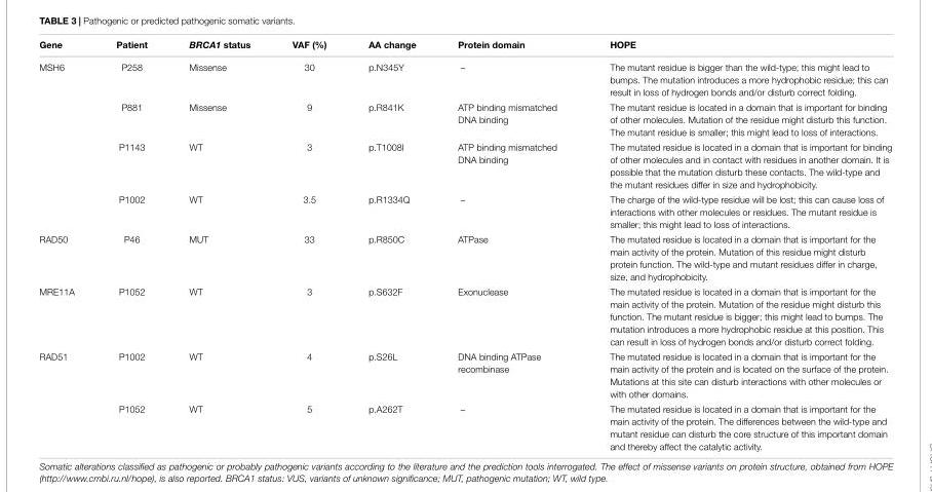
<table><thead><tr><td>Gene</td><td>Patient</td><td>BRCA1 status</td><td>VAF (%)</td><td>AA change</td><td>Protein domain</td><td>HOPE</td></tr></thead><tbody><tr><td rowspan="4">MSH6</td><td>P258</td><td>Missense</td><td>30</td><td>p.N345Y</td><td>–</td><td>The mutant residue is bigger than the wild-type; this might lead to bumps. The mutation introduces a more hydrophobic residue; this can result in loss of hydrogen bonds and/or disturb correct folding.</td></tr><tr><td>P881</td><td>Missense</td><td>9</td><td>p.R841K</td><td>ATP binding mismatched DNA binding</td><td>The mutant residue is located in a domain that is important for binding of other molecules. Mutation of the residue might disturb this function. The mutant residue is smaller; this might lead to loss of interactions.</td></tr><tr><td>P1143</td><td>WT</td><td>3</td><td>p.T1008I</td><td>ATP binding mismatched DNA binding</td><td>The mutated residue is located in a domain that is important for binding of other molecules and in contact with residues in another domain. It is possible that the mutation disturb these contacts. The wild-type and the mutant residues differ in size and hydrophobicity.</td></tr><tr><td>P1002</td><td>WT</td><td>3.5</td><td>p.R1334Q</td><td>–</td><td>The charge of the wild-type residue will be lost; this can cause loss of interactions with other molecules or residues. The mutant residue is smaller; this might lead to loss of interactions.</td></tr><tr><td>RAD50</td><td>P46</td><td>MUT</td><td>33</td><td>p.R850C</td><td>ATPase</td><td>The mutated residue is located in a domain that is important for the main activity of the protein. Mutation of this residue might disturb protein function. The wild-type and mutant residues differ in charge, size, and hydrophobicity.</td></tr><tr><td>MRE11A</td><td>P1052</td><td>WT</td><td>3</td><td>p.S632F</td><td>Exonuclease</td><td>The mutated residue is located in a domain that is important for the main activity of the protein. Mutation of the residue might disturb this function. The mutant residue is bigger; this might lead to bumps. The mutation introduces a more hydrophobic residue at this position. This can result in loss of hydrogen bonds and/or disturb correct folding.</td></tr><tr><td rowspan="2">RAD51</td><td>P1002</td><td>WT</td><td>4</td><td>p.S26L</td><td>DNA binding ATPase recombinase</td><td>The mutated residue is located in a domain that is important for the main activity of the protein and is located on the surface of the protein. Mutations at this site can disturb interactions with other molecules or with other domains.</td></tr><tr><td>P1052</td><td>WT</td><td>5</td><td>p.A262T</td><td>–</td><td>The mutated residue is located in a domain that is important for the main activity of the protein. The differences between the wild-type and mutant residue can disturb the core structure of this important domain and thereby affect the catalytic activity.</td></tr></tbody></table>